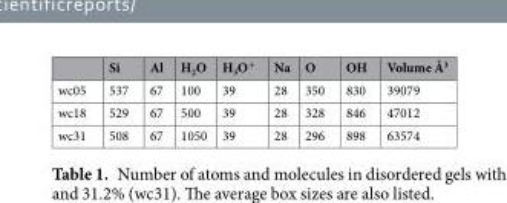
<table><thead><tr><td></td><td>Si</td><td>Al</td><td>H<sub>2</sub>O</td><td>H<sub>3</sub>O<sup>+</sup></td><td>Na</td><td>O</td><td>OH</td><td>Volume Å<sup>3</sup></td></tr></thead><tbody><tr><td>wc05</td><td>537</td><td>67</td><td>100</td><td>39</td><td>28</td><td>350</td><td>830</td><td>39079</td></tr><tr><td>wc18</td><td>529</td><td>67</td><td>500</td><td>39</td><td>28</td><td>328</td><td>846</td><td>47012</td></tr><tr><td>wc31</td><td>508</td><td>67</td><td>1050</td><td>39</td><td>28</td><td>296</td><td>898</td><td>63574</td></tr></tbody></table>